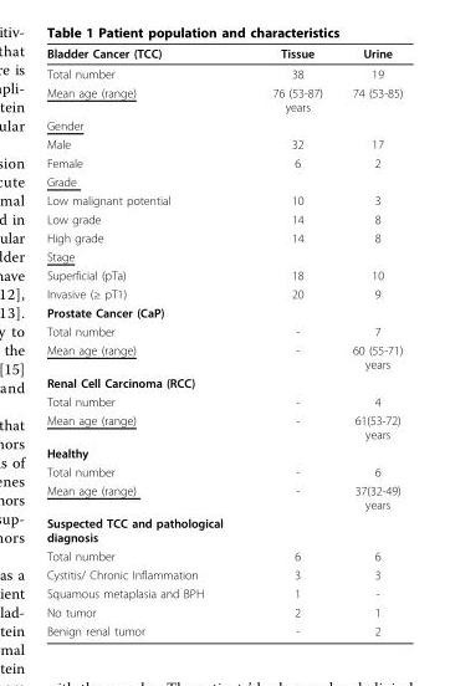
<table><thead><tr><td>Bladder Cancer (TCC)</td><td>Tissue</td><td>Urine</td></tr></thead><tbody><tr><td>Total number</td><td>38</td><td>19</td></tr><tr><td>Mean age (range)</td><td>76 (53-87) years</td><td>74 (53-85)</td></tr><tr><td colspan="3">Gender</td></tr><tr><td>Male</td><td>32</td><td>17</td></tr><tr><td>Female</td><td>6</td><td>2</td></tr><tr><td colspan="3">Grade</td></tr><tr><td>Low malignant potential</td><td>10</td><td>3</td></tr><tr><td>Low grade</td><td>14</td><td>8</td></tr><tr><td>High grade</td><td>14</td><td>8</td></tr><tr><td colspan="3">Stage</td></tr><tr><td>Superficial (pTa)</td><td>18</td><td>10</td></tr><tr><td>Invasive (≥ pT1)</td><td>20</td><td>9</td></tr><tr><td colspan="3">Prostate Cancer (CaP)</td></tr><tr><td>Total number</td><td>-</td><td>7</td></tr><tr><td>Mean age (range)</td><td>-</td><td>60 (55-71) years</td></tr><tr><td colspan="3">Renal Cell Carcinoma (RCC)</td></tr><tr><td>Total number</td><td>-</td><td>4</td></tr><tr><td>Mean age (range)</td><td>-</td><td>61(53-72) years</td></tr><tr><td colspan="3">Healthy</td></tr><tr><td>Total number</td><td>-</td><td>6</td></tr><tr><td>Mean age (range)</td><td>-</td><td>37(32-49) years</td></tr><tr><td colspan="3">Suspected TCC and pathological diagnosis</td></tr><tr><td>Total number</td><td>6</td><td>6</td></tr><tr><td>Cystitis/ Chronic Inflammation</td><td>3</td><td>3</td></tr><tr><td>Squamous metaplasia and BPH</td><td>1</td><td>-</td></tr><tr><td>No tumor</td><td>2</td><td>1</td></tr><tr><td>Benign renal tumor</td><td>-</td><td>2</td></tr></tbody></table>